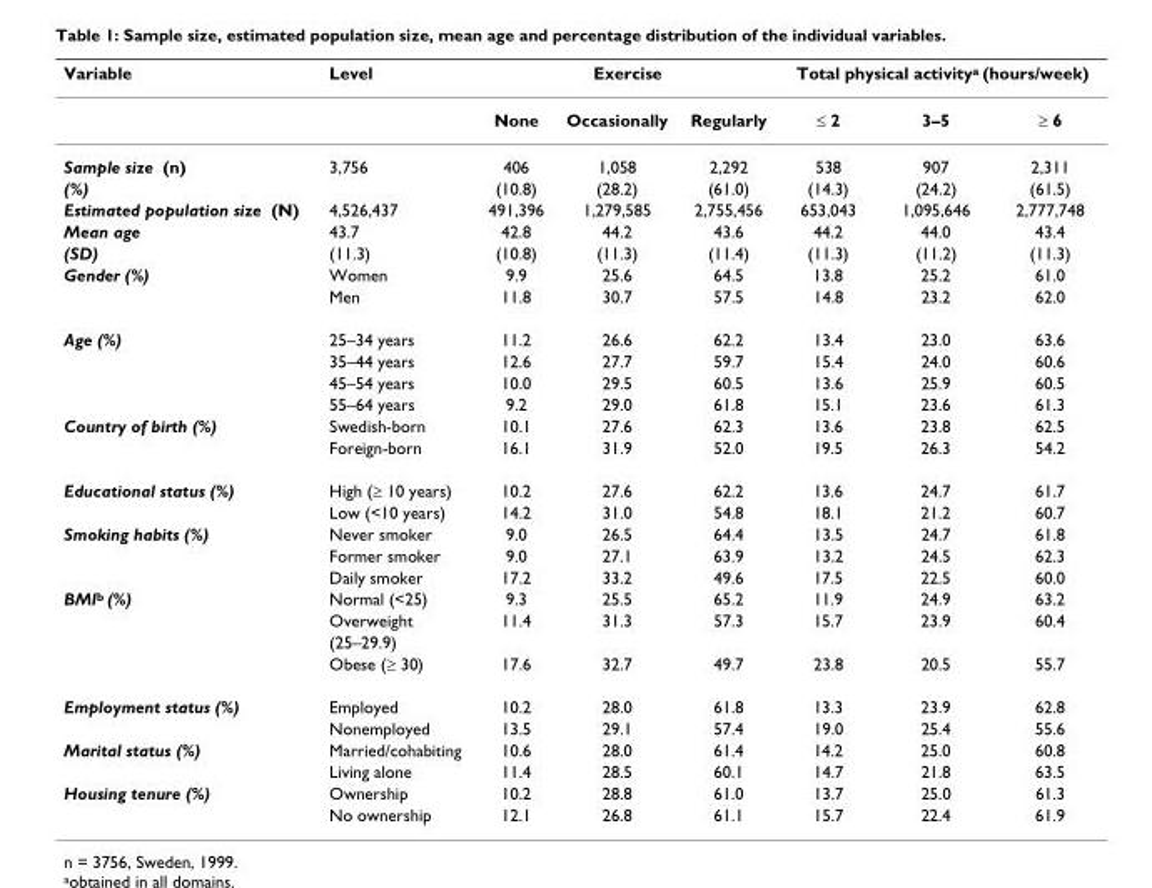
<table><thead><tr><td rowspan="2">Variable</td><td rowspan="2">Level</td><td colspan="3">Exercise</td><td colspan="3">Total physical activitya (hours/week)</td></tr><tr><td>None</td><td>Occasionally</td><td>Regularly</td><td>≤ 2</td><td>3–5</td><td>≥ 6</td></tr></thead><tbody><tr><td>Sample size (n)</td><td>3,756</td><td>406</td><td>1,058</td><td>2,292</td><td>538</td><td>907</td><td>2,311</td></tr><tr><td>(%)</td><td></td><td>(10.8)</td><td>(28.2)</td><td>(61.0)</td><td>(14.3)</td><td>(24.2)</td><td>(61.5)</td></tr><tr><td>Estimated population size (N)</td><td>4,526,437</td><td>491,396</td><td>1,279,585</td><td>2,755,456</td><td>653,043</td><td>1,095,646</td><td>2,777,748</td></tr><tr><td>Mean age</td><td>43.7</td><td>42.8</td><td>44.2</td><td>43.6</td><td>44.2</td><td>44.0</td><td>43.4</td></tr><tr><td>(SD)</td><td>(11.3)</td><td>(10.8)</td><td>(11.3)</td><td>(11.4)</td><td>(11.3)</td><td>(11.2)</td><td>(11.3)</td></tr><tr><td rowspan="2">Gender (%)</td><td>Women</td><td>9.9</td><td>25.6</td><td>64.5</td><td>13.8</td><td>25.2</td><td>61.0</td></tr><tr><td>Men</td><td>11.8</td><td>30.7</td><td>57.5</td><td>14.8</td><td>23.2</td><td>62.0</td></tr><tr><td rowspan="4">Age (%)</td><td>25–34 years</td><td>11.2</td><td>26.6</td><td>62.2</td><td>13.4</td><td>23.0</td><td>63.6</td></tr><tr><td>35–44 years</td><td>12.6</td><td>27.7</td><td>59.7</td><td>15.4</td><td>24.0</td><td>60.6</td></tr><tr><td>45–54 years</td><td>10.0</td><td>29.5</td><td>60.5</td><td>13.6</td><td>25.9</td><td>60.5</td></tr><tr><td>55–64 years</td><td>9.2</td><td>29.0</td><td>61.8</td><td>15.1</td><td>23.6</td><td>61.3</td></tr><tr><td rowspan="2">Country of birth (%)</td><td>Swedish-born</td><td>10.1</td><td>27.6</td><td>62.3</td><td>13.6</td><td>23.8</td><td>62.5</td></tr><tr><td>Foreign-born</td><td>16.1</td><td>31.9</td><td>52.0</td><td>19.5</td><td>26.3</td><td>54.2</td></tr><tr><td rowspan="2">Educational status (%)</td><td>High (≥ 10 years)</td><td>10.2</td><td>27.6</td><td>62.2</td><td>13.6</td><td>24.7</td><td>61.7</td></tr><tr><td>Low (&lt;10 years)</td><td>14.2</td><td>31.0</td><td>54.8</td><td>18.1</td><td>21.2</td><td>60.7</td></tr><tr><td rowspan="3">Smoking habits (%)</td><td>Never smoker</td><td>9.0</td><td>26.5</td><td>64.4</td><td>13.5</td><td>24.7</td><td>61.8</td></tr><tr><td>Former smoker</td><td>9.0</td><td>27.1</td><td>63.9</td><td>13.2</td><td>24.5</td><td>62.3</td></tr><tr><td>Daily smoker</td><td>17.2</td><td>33.2</td><td>49.6</td><td>17.5</td><td>22.5</td><td>60.0</td></tr><tr><td rowspan="4">BMI<sup>b</sup> (%)</td><td>Normal (&lt;25)</td><td>9.3</td><td>25.5</td><td>65.2</td><td>11.9</td><td>24.9</td><td>63.2</td></tr><tr><td>Overweight</td><td>11.4</td><td>31.3</td><td>57.3</td><td>15.7</td><td>23.9</td><td>60.4</td></tr><tr><td>(25–29.9)</td><td></td><td></td><td></td><td></td><td></td><td></td></tr><tr><td>Obese (≥ 30)</td><td>17.6</td><td>32.7</td><td>49.7</td><td>23.8</td><td>20.5</td><td>55.7</td></tr><tr><td rowspan="2">Employment status (%)</td><td>Employed</td><td>10.2</td><td>28.0</td><td>61.8</td><td>13.3</td><td>23.9</td><td>62.8</td></tr><tr><td>Nonemployed</td><td>13.5</td><td>29.1</td><td>57.4</td><td>19.0</td><td>25.4</td><td>55.6</td></tr><tr><td rowspan="2">Marital status (%)</td><td>Married/cohabiting</td><td>10.6</td><td>28.0</td><td>61.4</td><td>14.2</td><td>25.0</td><td>60.8</td></tr><tr><td>Living alone</td><td>11.4</td><td>28.5</td><td>60.1</td><td>14.7</td><td>21.8</td><td>63.5</td></tr><tr><td rowspan="2">Housing tenure (%)</td><td>Ownership</td><td>10.2</td><td>28.8</td><td>61.0</td><td>13.7</td><td>25.0</td><td>61.3</td></tr><tr><td>No ownership</td><td>12.1</td><td>26.8</td><td>61.1</td><td>15.7</td><td>22.4</td><td>61.9</td></tr></tbody></table>